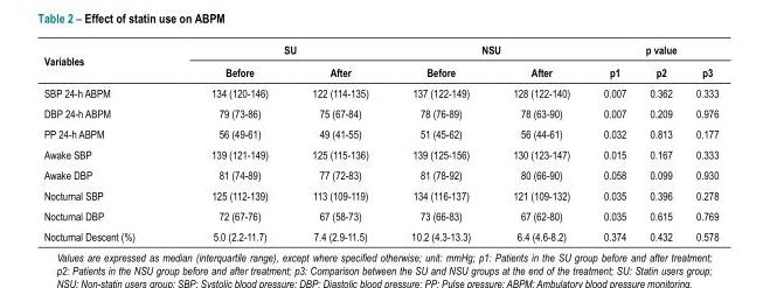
<table><thead><tr><td rowspan="2">Variables</td><td colspan="2">SU</td><td colspan="2">NSU</td><td colspan="3">p value</td></tr><tr><td>Before</td><td>After</td><td>Before</td><td>After</td><td>p1</td><td>p2</td><td>p3</td></tr></thead><tbody><tr><td>SBP 24-h ABPM</td><td>134 (120-146)</td><td>122 (114-135)</td><td>137 (122-149)</td><td>128 (122-140)</td><td>0.007</td><td>0.362</td><td>0.333</td></tr><tr><td>DBP 24-h ABPM</td><td>79 (73-86)</td><td>75 (67-84)</td><td>78 (76-89)</td><td>78 (63-90)</td><td>0.007</td><td>0.209</td><td>0.976</td></tr><tr><td>PP 24-h ABPM</td><td>56 (49-61)</td><td>49 (41-55)</td><td>51 (45-62)</td><td>56 (44-61)</td><td>0.032</td><td>0.813</td><td>0.177</td></tr><tr><td>Awake SBP</td><td>139 (121-149)</td><td>125 (115-136)</td><td>139 (125-156)</td><td>130 (123-147)</td><td>0.015</td><td>0.167</td><td>0.333</td></tr><tr><td>Awake DBP</td><td>81 (74-89)</td><td>77 (72-83)</td><td>81 (78-92)</td><td>80 (66-90)</td><td>0.058</td><td>0.099</td><td>0.930</td></tr><tr><td>Nocturnal SBP</td><td>125 (112-139)</td><td>113 (109-119)</td><td>134 (116-137)</td><td>121 (109-132)</td><td>0.035</td><td>0.396</td><td>0.278</td></tr><tr><td>Nocturnal DBP</td><td>72 (67-76)</td><td>67 (58-73)</td><td>73 (66-83)</td><td>67 (62-80)</td><td>0.035</td><td>0.615</td><td>0.769</td></tr><tr><td>Nocturnal Descent (%)</td><td>5.0 (2.2-11.7)</td><td>7.4 (2.9-11.5)</td><td>10.2 (4.3-13.3)</td><td>6.4 (4.6-8.2)</td><td>0.374</td><td>0.432</td><td>0.578</td></tr></tbody></table>